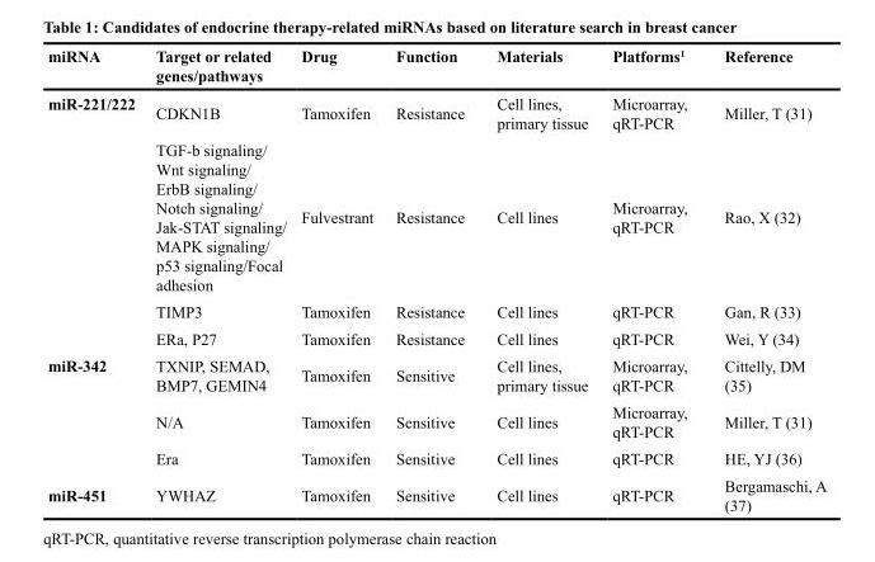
<table><thead><tr><td>miRNA</td><td>Target or related genes/pathways</td><td>Drug</td><td>Function</td><td>Materials</td><td>Platforms<sup>1</sup></td><td>Reference</td></tr></thead><tbody><tr><td rowspan="4">miR-221/222</td><td>CDKN1B</td><td>Tamoxifen</td><td>Resistance</td><td>Cell lines, primary tissue</td><td>Microarray, qRT-PCR</td><td>Miller, T (31)</td></tr><tr><td>TGF-b signaling/ Wnt signaling/ ErbB signaling/ Notch signaling/ Jak-STAT signaling/ MAPK signaling/ p53 signaling/Focal adhesion</td><td>Fulvestrant</td><td>Resistance</td><td>Cell lines</td><td>Microarray, qRT-PCR</td><td>Rao, X (32)</td></tr><tr><td>TIMP3</td><td>Tamoxifen</td><td>Resistance</td><td>Cell lines</td><td>qRT-PCR</td><td>Gan, R (33)</td></tr><tr><td>ERa, P27</td><td>Tamoxifen</td><td>Resistance</td><td>Cell lines</td><td>qRT-PCR</td><td>Wei, Y (34)</td></tr><tr><td rowspan="3">miR-342</td><td>TXNIP, SEMAD, BMP7, GEMIN4</td><td>Tamoxifen</td><td>Sensitive</td><td>Cell lines, primary tissue</td><td>Microarray, qRT-PCR</td><td>Cittelly, DM (35)</td></tr><tr><td>N/A</td><td>Tamoxifen</td><td>Sensitive</td><td>Cell lines</td><td>Microarray, qRT-PCR</td><td>Miller, T (31)</td></tr><tr><td>Era</td><td>Tamoxifen</td><td>Sensitive</td><td>Cell lines</td><td>qRT-PCR</td><td>HE, YJ (36)</td></tr><tr><td>miR-451</td><td>YWHAZ</td><td>Tamoxifen</td><td>Sensitive</td><td>Cell lines</td><td>qRT-PCR</td><td>Bergamaschi, A (37)</td></tr></tbody></table>